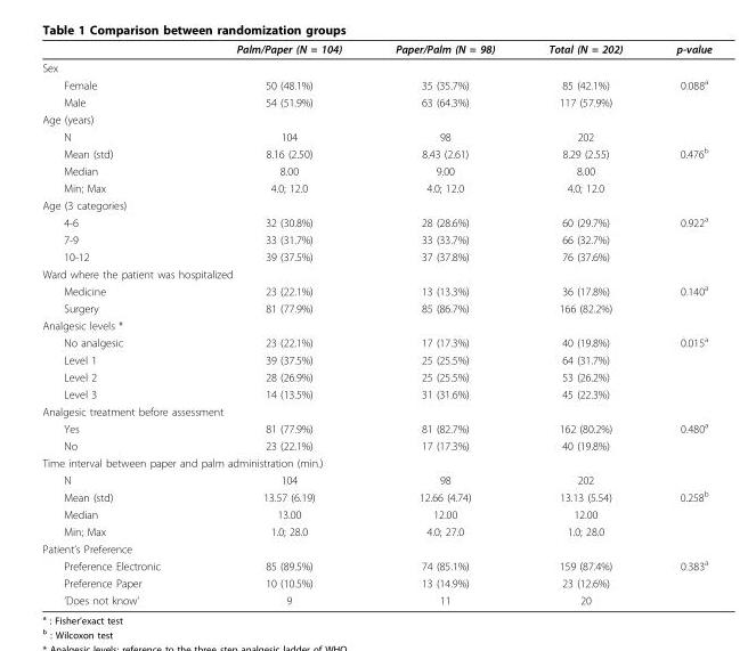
<table><thead><tr><td></td><td>Palm/Paper (N = 104)</td><td>Paper/Palm (N = 98)</td><td>Total (N = 202)</td><td>p-value</td></tr></thead><tbody><tr><td colspan="5">Sex</td></tr><tr><td>Female</td><td>50 (48.1%)</td><td>35 (35.7%)</td><td>85 (42.1%)</td><td>0.088<sup>a</sup></td></tr><tr><td>Male</td><td>54 (51.9%)</td><td>63 (64.3%)</td><td>117 (57.9%)</td><td></td></tr><tr><td colspan="5">Age (years)</td></tr><tr><td>N</td><td>104</td><td>98</td><td>202</td><td></td></tr><tr><td>Mean (std)</td><td>8.16 (2.50)</td><td>8.43 (2.61)</td><td>8.29 (2.55)</td><td>0.476<sup>b</sup></td></tr><tr><td>Median</td><td>8.00</td><td>9.00</td><td>8.00</td><td></td></tr><tr><td>Min; Max</td><td>4.0; 12.0</td><td>4.0; 12.0</td><td>4.0; 12.0</td><td></td></tr><tr><td colspan="5">Age (3 categories)</td></tr><tr><td>4-6</td><td>32 (30.8%)</td><td>28 (28.6%)</td><td>60 (29.7%)</td><td>0.922<sup>a</sup></td></tr><tr><td>7-9</td><td>33 (31.7%)</td><td>33 (33.7%)</td><td>66 (32.7%)</td><td></td></tr><tr><td>10-12</td><td>39 (37.5%)</td><td>37 (37.8%)</td><td>76 (37.6%)</td><td></td></tr><tr><td colspan="5">Ward where the patient was hospitalized</td></tr><tr><td>Medicine</td><td>23 (22.1%)</td><td>13 (13.3%)</td><td>36 (17.8%)</td><td>0.140<sup>a</sup></td></tr><tr><td>Surgery</td><td>81 (77.9%)</td><td>85 (86.7%)</td><td>166 (82.2%)</td><td></td></tr><tr><td colspan="5">Analgesic levels *</td></tr><tr><td>No analgesic</td><td>23 (22.1%)</td><td>17 (17.3%)</td><td>40 (19.8%)</td><td>0.015<sup>a</sup></td></tr><tr><td>Level 1</td><td>39 (37.5%)</td><td>25 (25.5%)</td><td>64 (31.7%)</td><td></td></tr><tr><td>Level 2</td><td>28 (26.9%)</td><td>25 (25.5%)</td><td>53 (26.2%)</td><td></td></tr><tr><td>Level 3</td><td>14 (13.5%)</td><td>31 (31.6%)</td><td>45 (22.3%)</td><td></td></tr><tr><td colspan="5">Analgesic treatment before assessment</td></tr><tr><td>Yes</td><td>81 (77.9%)</td><td>81 (82.7%)</td><td>162 (80.2%)</td><td>0.480<sup>a</sup></td></tr><tr><td>No</td><td>23 (22.1%)</td><td>17 (17.3%)</td><td>40 (19.8%)</td><td></td></tr><tr><td colspan="5">Time interval between paper and palm administration (min.)</td></tr><tr><td>N</td><td>104</td><td>98</td><td>202</td><td></td></tr><tr><td>Mean (std)</td><td>13.57 (6.19)</td><td>12.66 (4.74)</td><td>13.13 (5.54)</td><td>0.258<sup>b</sup></td></tr><tr><td>Median</td><td>13.00</td><td>12.00</td><td>12.00</td><td></td></tr><tr><td>Min; Max</td><td>1.0; 28.0</td><td>4.0; 27.0</td><td>1.0; 28.0</td><td></td></tr><tr><td colspan="5">Patient’s Preference</td></tr><tr><td>Preference Electronic</td><td>85 (89.5%)</td><td>74 (85.1%)</td><td>159 (87.4%)</td><td>0.383<sup>a</sup></td></tr><tr><td>Preference Paper</td><td>10 (10.5%)</td><td>13 (14.9%)</td><td>23 (12.6%)</td><td></td></tr><tr><td>’Does not know’</td><td>9</td><td>11</td><td>20</td><td></td></tr></tbody></table>